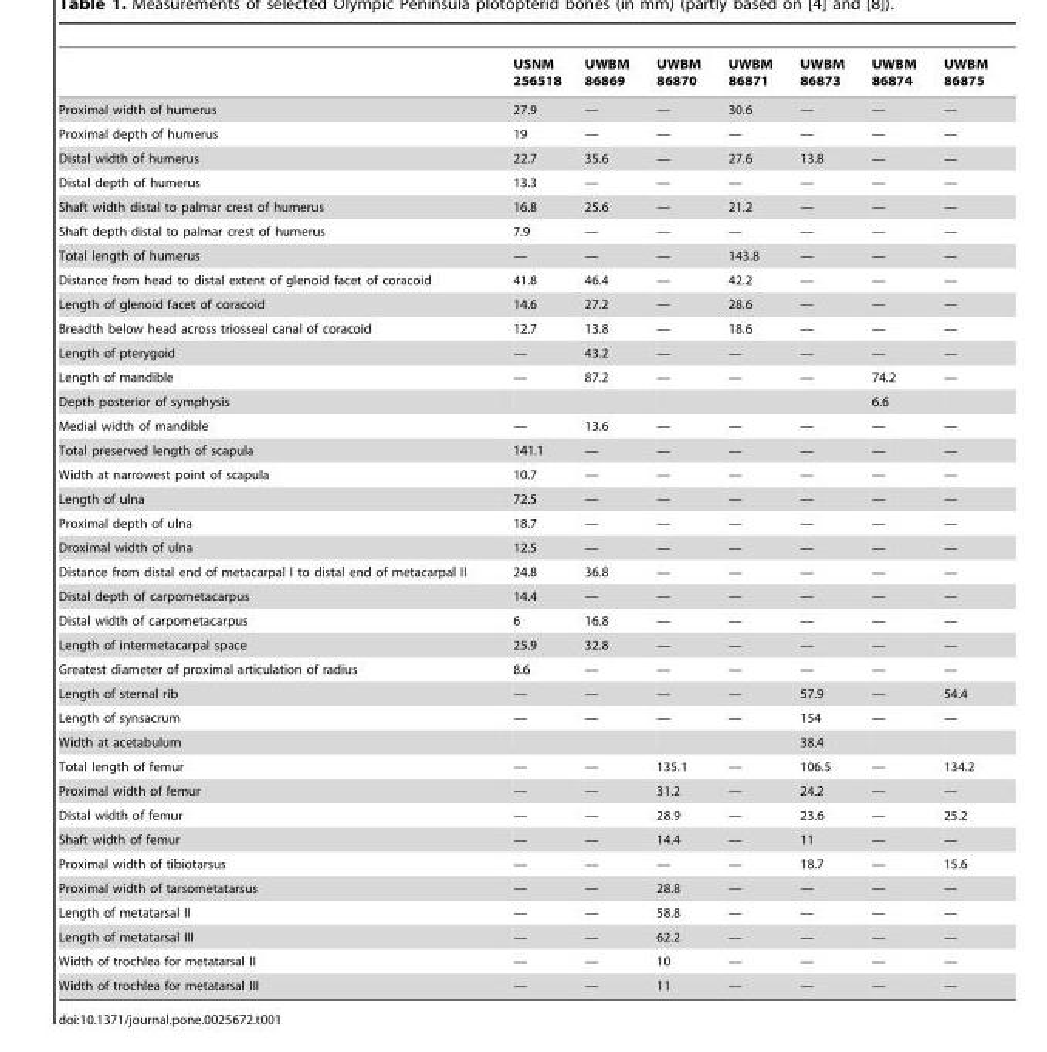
<table><thead><tr><td></td><td>USNM 256518</td><td>UWBM 86869</td><td>UWBM 86870</td><td>UWBM 86871</td><td>UWBM 86873</td><td>UWBM 86874</td><td>UWBM 86875</td></tr></thead><tbody><tr><td>Proximal width of humerus</td><td>27.9</td><td>—</td><td>—</td><td>30.6</td><td>—</td><td>—</td><td>—</td></tr><tr><td>Proximal depth of humerus</td><td>19</td><td>—</td><td>—</td><td>—</td><td>—</td><td>—</td><td>—</td></tr><tr><td>Distal width of humerus</td><td>22.7</td><td>35.6</td><td>—</td><td>27.6</td><td>13.8</td><td>—</td><td>—</td></tr><tr><td>Distal depth of humerus</td><td>13.3</td><td>—</td><td>—</td><td>—</td><td>—</td><td>—</td><td>—</td></tr><tr><td>Shaft width distal to palmar crest of humerus</td><td>16.8</td><td>25.6</td><td>—</td><td>21.2</td><td>—</td><td>—</td><td>—</td></tr><tr><td>Shaft depth distal to palmar crest of humerus</td><td>7.9</td><td>—</td><td>—</td><td>—</td><td>—</td><td>—</td><td>—</td></tr><tr><td>Total length of humerus</td><td>—</td><td>—</td><td>—</td><td>143.8</td><td>—</td><td>—</td><td>—</td></tr><tr><td>Distance from head to distal extent of glenoid facet of coracoid</td><td>41.8</td><td>46.4</td><td>—</td><td>42.2</td><td>—</td><td>—</td><td>—</td></tr><tr><td>Length of glenoid facet of coracoid</td><td>14.6</td><td>27.2</td><td>—</td><td>28.6</td><td>—</td><td>—</td><td>—</td></tr><tr><td>Breadth below head across triosseal canal of coracoid</td><td>12.7</td><td>13.8</td><td>—</td><td>18.6</td><td>—</td><td>—</td><td>—</td></tr><tr><td>Length of pterygoid</td><td>—</td><td>43.2</td><td>—</td><td>—</td><td>—</td><td>—</td><td>—</td></tr><tr><td>Length of mandible</td><td>—</td><td>87.2</td><td>—</td><td>—</td><td>—</td><td>74.2</td><td>—</td></tr><tr><td>Depth posterior of symphysis</td><td></td><td></td><td></td><td></td><td></td><td>6.6</td><td></td></tr><tr><td>Medial width of mandible</td><td>—</td><td>13.6</td><td>—</td><td>—</td><td>—</td><td>—</td><td>—</td></tr><tr><td>Total preserved length of scapula</td><td>141.1</td><td>—</td><td>—</td><td>—</td><td>—</td><td>—</td><td>—</td></tr><tr><td>Width at narrowest point of scapula</td><td>10.7</td><td>—</td><td>—</td><td>—</td><td>—</td><td>—</td><td>—</td></tr><tr><td>Length of ulna</td><td>72.5</td><td>—</td><td>—</td><td>—</td><td>—</td><td>—</td><td>—</td></tr><tr><td>Proximal depth of ulna</td><td>18.7</td><td>—</td><td>—</td><td>—</td><td>—</td><td>—</td><td>—</td></tr><tr><td>Droximal width of ulna</td><td>12.5</td><td>—</td><td>—</td><td>—</td><td>—</td><td>—</td><td>—</td></tr><tr><td>Distance from distal end of metacarpal I to distal end of metacarpal II</td><td>24.8</td><td>36.8</td><td>—</td><td>—</td><td>—</td><td>—</td><td>—</td></tr><tr><td>Distal depth of carpometacarpus</td><td>14.4</td><td>—</td><td>—</td><td>—</td><td>—</td><td>—</td><td>—</td></tr><tr><td>Distal width of carpometacarpus</td><td>6</td><td>16.8</td><td>—</td><td>—</td><td>—</td><td>—</td><td>—</td></tr><tr><td>Length of intermetacarpal space</td><td>25.9</td><td>32.8</td><td>—</td><td>—</td><td>—</td><td>—</td><td>—</td></tr><tr><td>Greatest diameter of proximal articulation of radius</td><td>8.6</td><td>—</td><td>—</td><td>—</td><td>—</td><td>—</td><td>—</td></tr><tr><td>Length of sternal rib</td><td>—</td><td>—</td><td>—</td><td>—</td><td>57.9</td><td>—</td><td>54.4</td></tr><tr><td>Length of synsacrum</td><td>—</td><td>—</td><td>—</td><td>—</td><td>154</td><td>—</td><td>—</td></tr><tr><td>Width at acetabulum</td><td></td><td></td><td></td><td></td><td>38.4</td><td></td><td></td></tr><tr><td>Total length of femur</td><td>—</td><td>—</td><td>135.1</td><td>—</td><td>106.5</td><td>—</td><td>134.2</td></tr><tr><td>Proximal width of femur</td><td>—</td><td>—</td><td>31.2</td><td>—</td><td>24.2</td><td>—</td><td>—</td></tr><tr><td>Distal width of femur</td><td>—</td><td>—</td><td>28.9</td><td>—</td><td>23.6</td><td>—</td><td>25.2</td></tr><tr><td>Shaft width of femur</td><td>—</td><td>—</td><td>14.4</td><td>—</td><td>11</td><td>—</td><td>—</td></tr><tr><td>Proximal width of tibiotarsus</td><td>—</td><td>—</td><td>—</td><td>—</td><td>18.7</td><td>—</td><td>15.6</td></tr><tr><td>Proximal width of tarsometatarsus</td><td>—</td><td>—</td><td>28.8</td><td>—</td><td>—</td><td>—</td><td>—</td></tr><tr><td>Length of metatarsal II</td><td>—</td><td>—</td><td>58.8</td><td>—</td><td>—</td><td>—</td><td>—</td></tr><tr><td>Length of metatarsal III</td><td>—</td><td>—</td><td>62.2</td><td>—</td><td>—</td><td>—</td><td>—</td></tr><tr><td>Width of trochlea for metatarsal II</td><td>—</td><td>—</td><td>10</td><td>—</td><td>—</td><td>—</td><td>—</td></tr><tr><td>Width of trochlea for metatarsal III</td><td>—</td><td>—</td><td>11</td><td>—</td><td>—</td><td>—</td><td>—</td></tr></tbody></table>